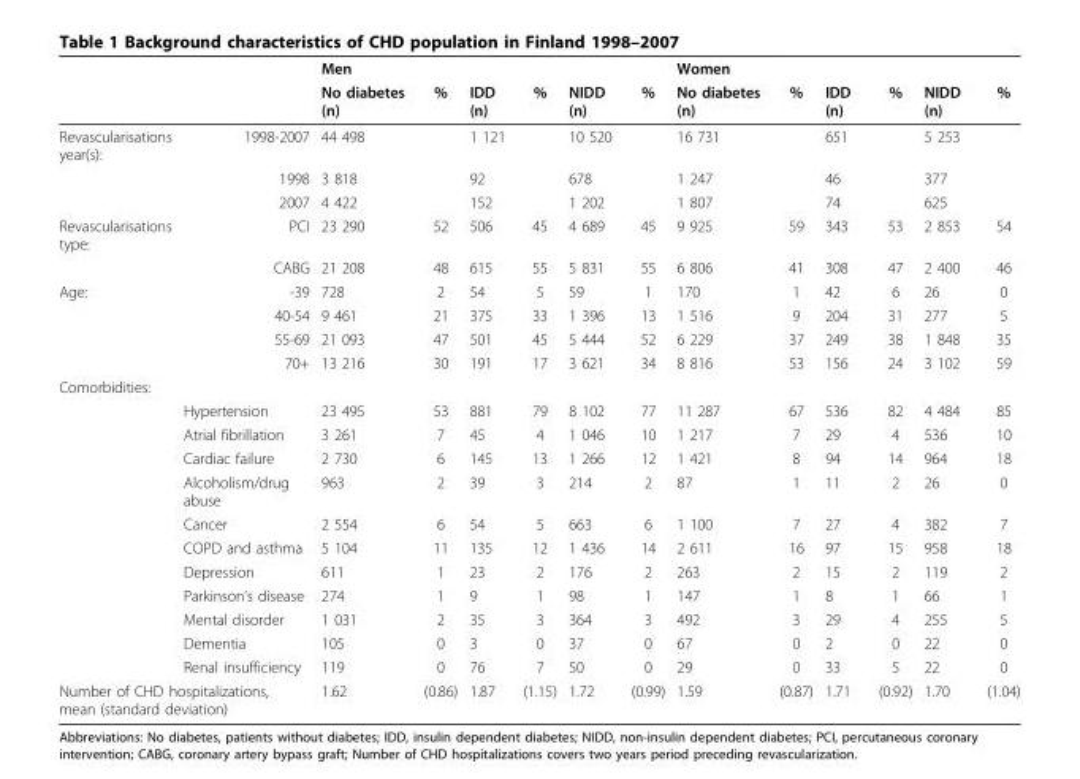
<table><thead><tr><td rowspan="2"></td><td rowspan="2"></td><td rowspan="2">Men No diabetes (n)</td><td rowspan="2">%</td><td rowspan="2">IDD (n)</td><td rowspan="2">%</td><td rowspan="2">NIDD (n)</td><td rowspan="2">%</td><td rowspan="2">Women No diabetes (n)</td><td rowspan="2">%</td><td rowspan="2">IDD (n)</td><td rowspan="2">%</td><td rowspan="2">NIDD (n)</td><td rowspan="2">%</td></tr><tr></tr></thead><tbody><tr><td rowspan="3">Revascularisations year(s):</td><td>1998-2007</td><td>44 498</td><td></td><td>1 121</td><td></td><td>10 520</td><td></td><td>16 731</td><td></td><td>651</td><td></td><td>5 253</td><td></td></tr><tr><td>1998</td><td>3 818</td><td></td><td>92</td><td></td><td>678</td><td></td><td>1 247</td><td></td><td>46</td><td></td><td>377</td><td></td></tr><tr><td>2007</td><td>4 422</td><td></td><td>152</td><td></td><td>1 202</td><td></td><td>1 807</td><td></td><td>74</td><td></td><td>625</td><td></td></tr><tr><td rowspan="2">Revascularisations type:</td><td>PCI</td><td>23 290</td><td>52</td><td>506</td><td>45</td><td>4 689</td><td>45</td><td>9 925</td><td>59</td><td>343</td><td>53</td><td>2 853</td><td>54</td></tr><tr><td>CABG</td><td>21 208</td><td>48</td><td>615</td><td>55</td><td>5 831</td><td>55</td><td>6 806</td><td>41</td><td>308</td><td>47</td><td>2 400</td><td>46</td></tr><tr><td rowspan="4">Age:</td><td>-39</td><td>728</td><td>2</td><td>54</td><td>5</td><td>59</td><td>1</td><td>170</td><td>1</td><td>42</td><td>6</td><td>26</td><td>0</td></tr><tr><td>40-54</td><td>9 461</td><td>21</td><td>375</td><td>33</td><td>1 396</td><td>13</td><td>1 516</td><td>9</td><td>204</td><td>31</td><td>277</td><td>5</td></tr><tr><td>55-69</td><td>21 093</td><td>47</td><td>501</td><td>45</td><td>5 444</td><td>52</td><td>6 229</td><td>37</td><td>249</td><td>38</td><td>1 848</td><td>35</td></tr><tr><td>70+</td><td>13 216</td><td>30</td><td>191</td><td>17</td><td>3 621</td><td>34</td><td>8 816</td><td>53</td><td>156</td><td>24</td><td>3 102</td><td>59</td></tr><tr><td colspan="14">Comorbidities:</td></tr><tr><td></td><td>Hypertension</td><td>23 495</td><td>53</td><td>881</td><td>79</td><td>8 102</td><td>77</td><td>11 287</td><td>67</td><td>536</td><td>82</td><td>4 484</td><td>85</td></tr><tr><td></td><td>Atrial fibrillation</td><td>3 261</td><td>7</td><td>45</td><td>4</td><td>1 046</td><td>10</td><td>1 217</td><td>7</td><td>29</td><td>4</td><td>536</td><td>10</td></tr><tr><td></td><td>Cardiac failure</td><td>2 730</td><td>6</td><td>145</td><td>13</td><td>1 266</td><td>12</td><td>1 421</td><td>8</td><td>94</td><td>14</td><td>964</td><td>18</td></tr><tr><td></td><td>Alcoholism/drug abuse</td><td>963</td><td>2</td><td>39</td><td>3</td><td>214</td><td>2</td><td>87</td><td>1</td><td>11</td><td>2</td><td>26</td><td>0</td></tr><tr><td></td><td>Cancer</td><td>2 554</td><td>6</td><td>54</td><td>5</td><td>663</td><td>6</td><td>1 100</td><td>7</td><td>27</td><td>4</td><td>382</td><td>7</td></tr><tr><td></td><td>COPD and asthma</td><td>5 104</td><td>11</td><td>135</td><td>12</td><td>1 436</td><td>14</td><td>2 611</td><td>16</td><td>97</td><td>15</td><td>958</td><td>18</td></tr><tr><td></td><td>Depression</td><td>611</td><td>1</td><td>23</td><td>2</td><td>176</td><td>2</td><td>263</td><td>2</td><td>15</td><td>2</td><td>119</td><td>2</td></tr><tr><td></td><td>Parkinson’s disease</td><td>274</td><td>1</td><td>9</td><td>1</td><td>98</td><td>1</td><td>147</td><td>1</td><td>8</td><td>1</td><td>66</td><td>1</td></tr><tr><td></td><td>Mental disorder</td><td>1 031</td><td>2</td><td>35</td><td>3</td><td>364</td><td>3</td><td>492</td><td>3</td><td>29</td><td>4</td><td>255</td><td>5</td></tr><tr><td></td><td>Dementia</td><td>105</td><td>0</td><td>3</td><td>0</td><td>37</td><td>0</td><td>67</td><td>0</td><td>2</td><td>0</td><td>22</td><td>0</td></tr><tr><td></td><td>Renal insufficiency</td><td>119</td><td>0</td><td>76</td><td>7</td><td>50</td><td>0</td><td>29</td><td>0</td><td>33</td><td>5</td><td>22</td><td>0</td></tr><tr><td colspan="2">Number of CHD hospitalizations, mean (standard deviation)</td><td>1.62</td><td>(0.86)</td><td>1.87</td><td>(1.15)</td><td>1.72</td><td>(0.99)</td><td>1.59</td><td>(0.87)</td><td>1.71</td><td>(0.92)</td><td>1.70</td><td>(1.04)</td></tr></tbody></table>